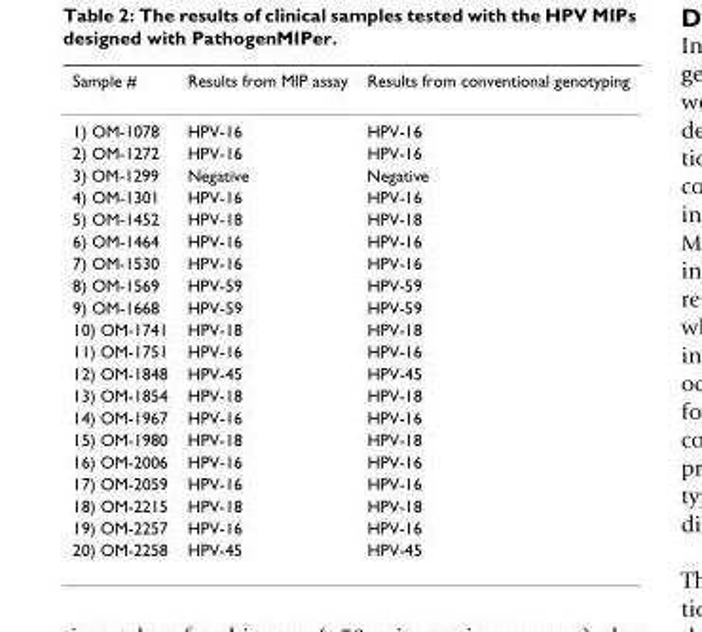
<table><thead><tr><td>Sample #</td><td>Results from MIP assay</td><td>Results from conventional genotyping</td></tr></thead><tbody><tr><td>1) OM-1078</td><td>HPV-16</td><td>HPV-16</td></tr><tr><td>2) OM-1272</td><td>HPV-16</td><td>HPV-16</td></tr><tr><td>3) OM-1299</td><td>Negative</td><td>Negative</td></tr><tr><td>4) OM-1301</td><td>HPV-16</td><td>HPV-16</td></tr><tr><td>5) OM-1452</td><td>HPV-18</td><td>HPV-18</td></tr><tr><td>6) OM-1464</td><td>HPV-16</td><td>HPV-16</td></tr><tr><td>7) OM-1530</td><td>HPV-16</td><td>HPV-16</td></tr><tr><td>8) OM-1569</td><td>HPV-59</td><td>HPV-59</td></tr><tr><td>9) OM-1668</td><td>HPV-59</td><td>HPV-59</td></tr><tr><td>10) OM-1741</td><td>HPV-18</td><td>HPV-18</td></tr><tr><td>11) OM-1751</td><td>HPV-16</td><td>HPV-16</td></tr><tr><td>12) OM-1848</td><td>HPV-45</td><td>HPV-45</td></tr><tr><td>13) OM-1854</td><td>HPV-18</td><td>HPV-18</td></tr><tr><td>14) OM-1967</td><td>HPV-16</td><td>HPV-16</td></tr><tr><td>15) OM-1980</td><td>HPV-18</td><td>HPV-18</td></tr><tr><td>16) OM-2006</td><td>HPV-16</td><td>HPV-16</td></tr><tr><td>17) OM-2059</td><td>HPV-16</td><td>HPV-16</td></tr><tr><td>18) OM-2215</td><td>HPV-18</td><td>HPV-18</td></tr><tr><td>19) OM-2257</td><td>HPV-16</td><td>HPV-16</td></tr><tr><td>20) OM-2258</td><td>HPV-45</td><td>HPV-45</td></tr></tbody></table>